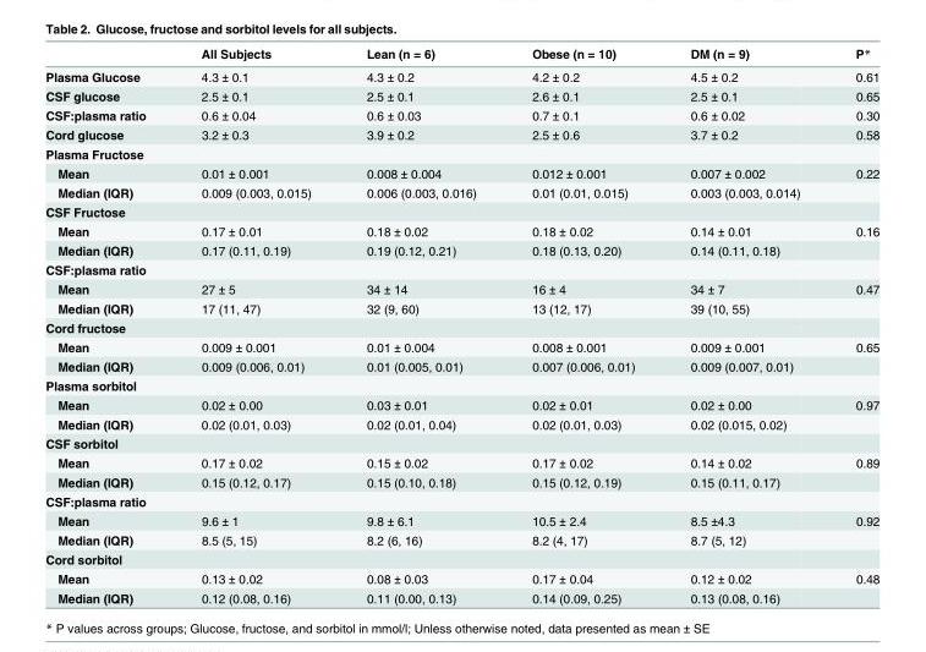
<table><thead><tr><td></td><td>All Subjects</td><td>Lean (n = 6)</td><td>Obese (n = 10)</td><td>DM (n = 9)</td><td>P*</td></tr></thead><tbody><tr><td>Plasma Glucose</td><td>4.3 ± 0.1</td><td>4.3 ± 0.2</td><td>4.2 ± 0.2</td><td>4.5 ± 0.2</td><td>0.61</td></tr><tr><td>CSF glucose</td><td>2.5 ± 0.1</td><td>2.5 ± 0.1</td><td>2.6 ± 0.1</td><td>2.5 ± 0.1</td><td>0.65</td></tr><tr><td>CSF:plasma ratio</td><td>0.6 ± 0.04</td><td>0.6 ± 0.03</td><td>0.7 ± 0.1</td><td>0.6 ± 0.02</td><td>0.30</td></tr><tr><td>Cord glucose</td><td>3.2 ± 0.3</td><td>3.9 ± 0.2</td><td>2.5 ± 0.6</td><td>3.7 ± 0.2</td><td>0.58</td></tr><tr><td colspan="6">Plasma Fructose</td></tr><tr><td>Mean</td><td>0.01 ± 0.001</td><td>0.008 ± 0.004</td><td>0.012 ± 0.001</td><td>0.007 ± 0.002</td><td>0.22</td></tr><tr><td>Median (IQR)</td><td>0.009 (0.003, 0.015)</td><td>0.006 (0.003, 0.016)</td><td>0.01 (0.01, 0.015)</td><td>0.003 (0.003, 0.014)</td><td></td></tr><tr><td colspan="6">CSF Fructose</td></tr><tr><td>Mean</td><td>0.17 ± 0.01</td><td>0.18 ± 0.02</td><td>0.18 ± 0.02</td><td>0.14 ± 0.01</td><td>0.16</td></tr><tr><td>Median (IQR)</td><td>0.17 (0.11, 0.19)</td><td>0.19 (0.12, 0.21)</td><td>0.18 (0.13, 0.20)</td><td>0.14 (0.11, 0.18)</td><td></td></tr><tr><td colspan="6">CSF:plasma ratio</td></tr><tr><td>Mean</td><td>27 ± 5</td><td>34 ± 14</td><td>16 ± 4</td><td>34 ± 7</td><td>0.47</td></tr><tr><td>Median (IQR)</td><td>17 (11, 47)</td><td>32 (9, 60)</td><td>13 (12, 17)</td><td>39 (10, 55)</td><td></td></tr><tr><td colspan="6">Cord fructose</td></tr><tr><td>Mean</td><td>0.009 ± 0.001</td><td>0.01 ± 0.004</td><td>0.008 ± 0.001</td><td>0.009 ± 0.001</td><td>0.65</td></tr><tr><td>Median (IQR)</td><td>0.009 (0.006, 0.01)</td><td>0.01 (0.005, 0.01)</td><td>0.007 (0.006, 0.01)</td><td>0.009 (0.007, 0.01)</td><td></td></tr><tr><td colspan="6">Plasma sorbitol</td></tr><tr><td>Mean</td><td>0.02 ± 0.00</td><td>0.03 ± 0.01</td><td>0.02 ± 0.01</td><td>0.02 ± 0.00</td><td>0.97</td></tr><tr><td>Median (IQR)</td><td>0.02 (0.01, 0.03)</td><td>0.02 (0.01, 0.04)</td><td>0.02 (0.01, 0.03)</td><td>0.02 (0.015, 0.02)</td><td></td></tr><tr><td colspan="6">CSF sorbitol</td></tr><tr><td>Mean</td><td>0.17 ± 0.02</td><td>0.15 ± 0.02</td><td>0.17 ± 0.02</td><td>0.14 ± 0.02</td><td>0.89</td></tr><tr><td>Median (IQR)</td><td>0.15 (0.12, 0.17)</td><td>0.15 (0.10, 0.18)</td><td>0.15 (0.12, 0.19)</td><td>0.15 (0.11, 0.17)</td><td></td></tr><tr><td colspan="6">CSF:plasma ratio</td></tr><tr><td>Mean</td><td>9.6 ± 1</td><td>9.8 ± 6.1</td><td>10.5 ± 2.4</td><td>8.5 ±4.3</td><td>0.92</td></tr><tr><td>Median (IQR)</td><td>8.5 (5, 15)</td><td>8.2 (6, 16)</td><td>8.2 (4, 17)</td><td>8.7 (5, 12)</td><td></td></tr><tr><td colspan="6">Cord sorbitol</td></tr><tr><td>Mean</td><td>0.13 ± 0.02</td><td>0.08 ± 0.03</td><td>0.17 ± 0.04</td><td>0.12 ± 0.02</td><td>0.48</td></tr><tr><td>Median (IQR)</td><td>0.12 (0.08, 0.16)</td><td>0.11 (0.00, 0.13)</td><td>0.14 (0.09, 0.25)</td><td>0.13 (0.08, 0.16)</td><td></td></tr></tbody></table>